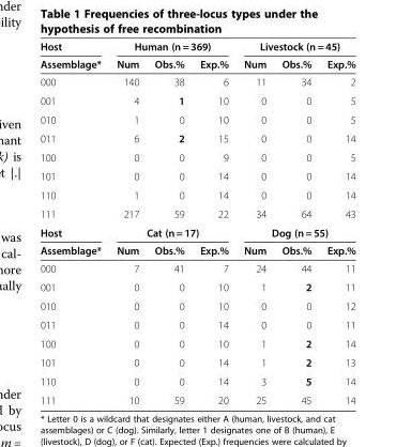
<table><thead><tr><td rowspan="2">Host Assemblage*</td><td colspan="3">Human (n = 369)</td><td colspan="3">Livestock (n = 45)</td></tr><tr><td>Num</td><td>Obs.%</td><td>Exp.%</td><td>Num</td><td>Obs.%</td><td>Exp.%</td></tr></thead><tbody><tr><td>000</td><td>140</td><td>38</td><td>6</td><td>11</td><td>34</td><td>2</td></tr><tr><td>001</td><td>4</td><td>1</td><td>10</td><td>0</td><td>0</td><td>5</td></tr><tr><td>010</td><td>1</td><td>0</td><td>10</td><td>0</td><td>0</td><td>5</td></tr><tr><td>011</td><td>6</td><td>2</td><td>15</td><td>0</td><td>0</td><td>14</td></tr><tr><td>100</td><td>0</td><td>0</td><td>9</td><td>0</td><td>0</td><td>5</td></tr><tr><td>101</td><td>0</td><td>0</td><td>14</td><td>0</td><td>0</td><td>14</td></tr><tr><td>110</td><td>1</td><td>0</td><td>14</td><td>0</td><td>0</td><td>14</td></tr><tr><td>111</td><td>217</td><td>59</td><td>22</td><td>34</td><td>64</td><td>43</td></tr><tr><td>Host</td><td colspan="3">Cat (n = 17)</td><td colspan="3">Dog (n = 55)</td></tr><tr><td>Assemblage*</td><td>Num</td><td>Obs.%</td><td>Exp.%</td><td>Num</td><td>Obs.%</td><td>Exp.%</td></tr><tr><td>000</td><td>7</td><td>41</td><td>7</td><td>24</td><td>44</td><td>11</td></tr><tr><td>001</td><td>0</td><td>0</td><td>10</td><td>1</td><td>2</td><td>11</td></tr><tr><td>010</td><td>0</td><td>0</td><td>10</td><td>0</td><td>0</td><td>12</td></tr><tr><td>011</td><td>0</td><td>0</td><td>14</td><td>0</td><td>0</td><td>11</td></tr><tr><td>100</td><td>0</td><td>0</td><td>10</td><td>1</td><td>2</td><td>14</td></tr><tr><td>101</td><td>0</td><td>0</td><td>14</td><td>1</td><td>2</td><td>13</td></tr><tr><td>110</td><td>0</td><td>0</td><td>14</td><td>3</td><td>5</td><td>14</td></tr><tr><td>111</td><td>10</td><td>59</td><td>20</td><td>25</td><td>45</td><td>14</td></tr></tbody></table>